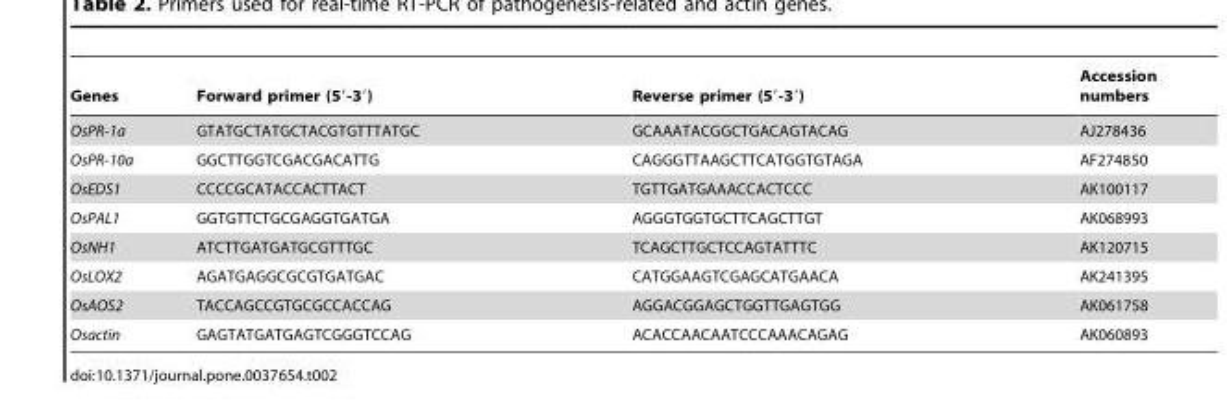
<table><thead><tr><td>Genes</td><td>Forward primer (5′-3′)</td><td>Reverse primer (5′-3′)</td><td>Accession numbers</td></tr></thead><tbody><tr><td>OsPR-1a</td><td>GTATGCTATGCTACGTGTTTATGC</td><td>GCAAATACGGCTGACAGTACAG</td><td>AJ278436</td></tr><tr><td>OsPR-10a</td><td>GGCTTGGTCGACGACATTG</td><td>CAGGGTTAAGCTTCATGGTGTAGA</td><td>AF274850</td></tr><tr><td>OsEDS1</td><td>CCCCGCATACCACTTACT</td><td>TGTTGATGAAACCACTCCC</td><td>AK100117</td></tr><tr><td>OsPAL1</td><td>GGTGTTCTGCGAGGTGATGA</td><td>AGGGTGGTGCTTCAGCTTGT</td><td>AK068993</td></tr><tr><td>OsNH1</td><td>ATCTTGATGATGCGTTTGC</td><td>TCAGCTTGCTCCAGTATTTC</td><td>AK120715</td></tr><tr><td>OsLOX2</td><td>AGATGAGGCGCGTGATGAC</td><td>CATGGAAGTCGAGCATGAACA</td><td>AK241395</td></tr><tr><td>OsAOS2</td><td>TACCAGCCGTGCGCCACCAG</td><td>AGGACGGAGCTGGTTGAGTGG</td><td>AK061758</td></tr><tr><td>Osactin</td><td>GAGTATGATGAGTCGGGTCCAG</td><td>ACACCAACAATCCCAAACAGAG</td><td>AK060893</td></tr></tbody></table>